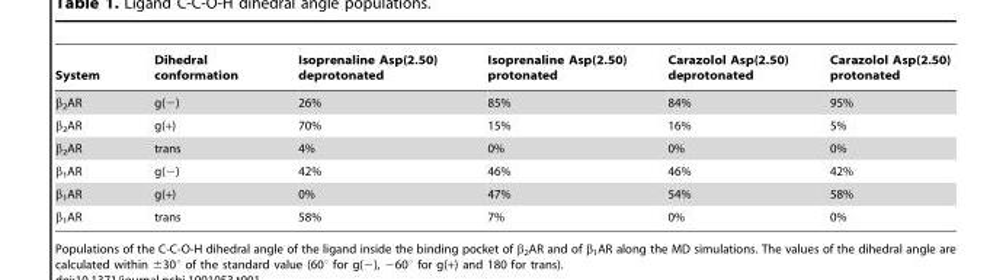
<table><thead><tr><td>System</td><td>Dihedral conformation</td><td>Isoprenaline Asp(2.50) deprotonated</td><td>Isoprenaline Asp(2.50) protonated</td><td>Carazolol Asp(2.50) deprotonated</td><td>Carazolol Asp(2.50) protonated</td></tr></thead><tbody><tr><td>β<sub>2</sub>AR</td><td>g(−)</td><td>26%</td><td>85%</td><td>84%</td><td>95%</td></tr><tr><td>β<sub>2</sub>AR</td><td>g(+)</td><td>70%</td><td>15%</td><td>16%</td><td>5%</td></tr><tr><td>β<sub>2</sub>AR</td><td>trans</td><td>4%</td><td>0%</td><td>0%</td><td>0%</td></tr><tr><td>β<sub>1</sub>AR</td><td>g(−)</td><td>42%</td><td>46%</td><td>46%</td><td>42%</td></tr><tr><td>β<sub>1</sub>AR</td><td>g(+)</td><td>0%</td><td>47%</td><td>54%</td><td>58%</td></tr><tr><td>β<sub>1</sub>AR</td><td>trans</td><td>58%</td><td>7%</td><td>0%</td><td>0%</td></tr></tbody></table>